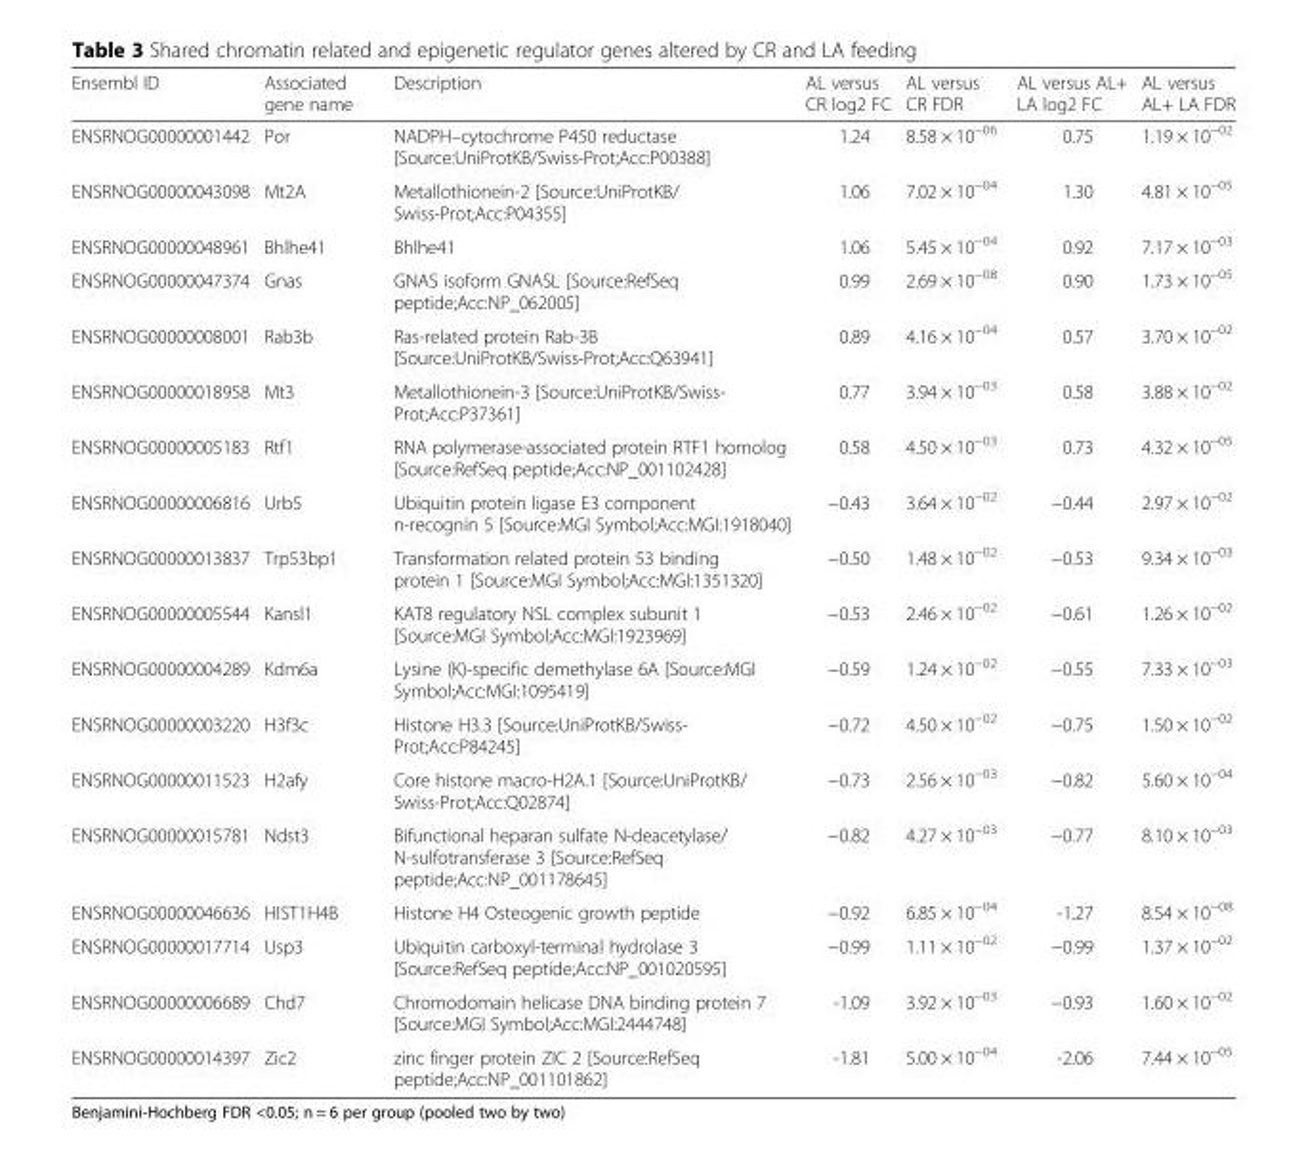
<table><thead><tr><td>Ensembl ID</td><td>Associated gene name</td><td>Description</td><td>AL versus CR log2 FC</td><td>AL versus CR FDR</td><td>AL versus AL+ LA log2 FC</td><td>AL versus AL+ LA FDR</td></tr></thead><tbody><tr><td>ENSRNOG00000001442</td><td>Por</td><td>NADPH–cytochrome P450 reductase [Source:UniProtKB/Swiss-Prot;Acc:P00388]</td><td>1.24</td><td>8.58 × 10<sup>−06</sup></td><td>0.75</td><td>1.19 × 10<sup>−02</sup></td></tr><tr><td>ENSRNOG00000043098</td><td>Mt2A</td><td>Metallothionein-2 [Source:UniProtKB/ Swiss-Prot;Acc:P04355]</td><td>1.06</td><td>7.02 × 10<sup>−04</sup></td><td>1.30</td><td>4.81 × 10<sup>−05</sup></td></tr><tr><td>ENSRNOG00000048961</td><td>Bhlhe41</td><td>Bhlhe41</td><td>1.06</td><td>5.45 × 10<sup>−04</sup></td><td>0.92</td><td>7.17 × 10<sup>−03</sup></td></tr><tr><td>ENSRNOG00000047374</td><td>Gnas</td><td>GNAS isoform GNASL [Source:RefSeq peptide;Acc:NP_062005]</td><td>0.99</td><td>2.69 × 10<sup>−08</sup></td><td>0.90</td><td>1.73 × 10<sup>−05</sup></td></tr><tr><td>ENSRNOG00000008001</td><td>Rab3b</td><td>Ras-related protein Rab-3B [Source:UniProtKB/Swiss-Prot;Acc:Q63941]</td><td>0.89</td><td>4.16 × 10<sup>−04</sup></td><td>0.57</td><td>3.70 × 10<sup>−02</sup></td></tr><tr><td>ENSRNOG00000018958</td><td>Mt3</td><td>Metallothionein-3 [Source:UniProtKB/Swiss- Prot;Acc:P37361]</td><td>0.77</td><td>3.94 × 10<sup>−03</sup></td><td>0.58</td><td>3.88 × 10<sup>−02</sup></td></tr><tr><td>ENSRNOG00000005183</td><td>Rtf1</td><td>RNA polymerase-associated protein RTF1 homolog [Source:RefSeq peptide;Acc:NP_001102428]</td><td>0.58</td><td>4.50 × 10<sup>−03</sup></td><td>0.73</td><td>4.32 × 10<sup>−05</sup></td></tr><tr><td>ENSRNOG00000006816</td><td>Urb5</td><td>Ubiquitin protein ligase E3 component n-recognin 5 [Source:MGI Symbol;Acc:MGI:1918040]</td><td>−0.43</td><td>3.64 × 10<sup>−02</sup></td><td>−0.44</td><td>2.97 × 10<sup>−02</sup></td></tr><tr><td>ENSRNOG00000013837</td><td>Trp53bp1</td><td>Transformation related protein 53 binding protein 1 [Source:MGI Symbol;Acc:MGI:1351320]</td><td>−0.50</td><td>1.48 × 10<sup>−02</sup></td><td>−0.53</td><td>9.34 × 10<sup>−03</sup></td></tr><tr><td>ENSRNOG00000005544</td><td>Kansl1</td><td>KAT8 regulatory NSL complex subunit 1 [Source:MGI Symbol;Acc:MGI:1923969]</td><td>−0.53</td><td>2.46 × 10<sup>−02</sup></td><td>−0.61</td><td>1.26 × 10<sup>−02</sup></td></tr><tr><td>ENSRNOG00000004289</td><td>Kdm6a</td><td>Lysine (K)-specific demethylase 6A [Source:MGI Symbol;Acc:MGI:1095419]</td><td>−0.59</td><td>1.24 × 10<sup>−02</sup></td><td>−0.55</td><td>7.33 × 10<sup>−03</sup></td></tr><tr><td>ENSRNOG00000003220</td><td>H3f3c</td><td>Histone H3.3 [Source:UniProtKB/Swiss- Prot;Acc:P84245]</td><td>−0.72</td><td>4.50 × 10<sup>−02</sup></td><td>−0.75</td><td>1.50 × 10<sup>−02</sup></td></tr><tr><td>ENSRNOG00000011523</td><td>H2afy</td><td>Core histone macro-H2A.1 [Source:UniProtKB/ Swiss-Prot;Acc:Q02874]</td><td>−0.73</td><td>2.56 × 10<sup>−03</sup></td><td>−0.82</td><td>5.60 × 10<sup>−04</sup></td></tr><tr><td>ENSRNOG00000015781</td><td>Ndst3</td><td>Bifunctional heparan sulfate N-deacetylase/ N-sulfotransferase 3 [Source:RefSeq peptide;Acc:NP_001178645]</td><td>−0.82</td><td>4.27 × 10<sup>−03</sup></td><td>−0.77</td><td>8.10 × 10<sup>−03</sup></td></tr><tr><td>ENSRNOG00000046636</td><td>HIST1H4B</td><td>Histone H4 Osteogenic growth peptide</td><td>−0.92</td><td>6.85 × 10<sup>−04</sup></td><td>-1.27</td><td>8.54 × 10<sup>−08</sup></td></tr><tr><td>ENSRNOG00000017714</td><td>Usp3</td><td>Ubiquitin carboxyl-terminal hydrolase 3 [Source:RefSeq peptide;Acc:NP_001020595]</td><td>−0.99</td><td>1.11 × 10<sup>−02</sup></td><td>−0.99</td><td>1.37 × 10<sup>−02</sup></td></tr><tr><td>ENSRNOG00000006689</td><td>Chd7</td><td>Chromodomain helicase DNA binding protein 7 [Source:MGI Symbol;Acc:MGI:2444748]</td><td>-1.09</td><td>3.92 × 10<sup>−03</sup></td><td>−0.93</td><td>1.60 × 10<sup>−02</sup></td></tr><tr><td>ENSRNOG00000014397</td><td>Zic2</td><td>zinc finger protein ZIC 2 [Source:RefSeq peptide;Acc:NP_001101862]</td><td>-1.81</td><td>5.00 × 10<sup>−04</sup></td><td>-2.06</td><td>7.44 × 10<sup>−05</sup></td></tr></tbody></table>